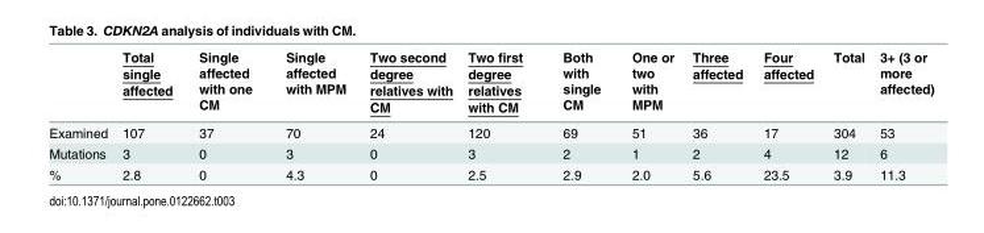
<table><thead><tr><td></td><td>Total single affected</td><td>Single affected with one CM</td><td>Single affected with MPM</td><td>Two second degree relatives with CM</td><td>Two first degree relatives with CM</td><td>Both with single CM</td><td>One or two with MPM</td><td>Three affected</td><td>Four affected</td><td>Total</td><td>3+ (3 or more affected)</td></tr></thead><tbody><tr><td>Examined</td><td>107</td><td>37</td><td>70</td><td>24</td><td>120</td><td>69</td><td>51</td><td>36</td><td>17</td><td>304</td><td>53</td></tr><tr><td>Mutations</td><td>3</td><td>0</td><td>3</td><td>0</td><td>3</td><td>2</td><td>1</td><td>2</td><td>4</td><td>12</td><td>6</td></tr><tr><td>%</td><td>2.8</td><td>0</td><td>4.3</td><td>0</td><td>2.5</td><td>2.9</td><td>2.0</td><td>5.6</td><td>23.5</td><td>3.9</td><td>11.3</td></tr></tbody></table>